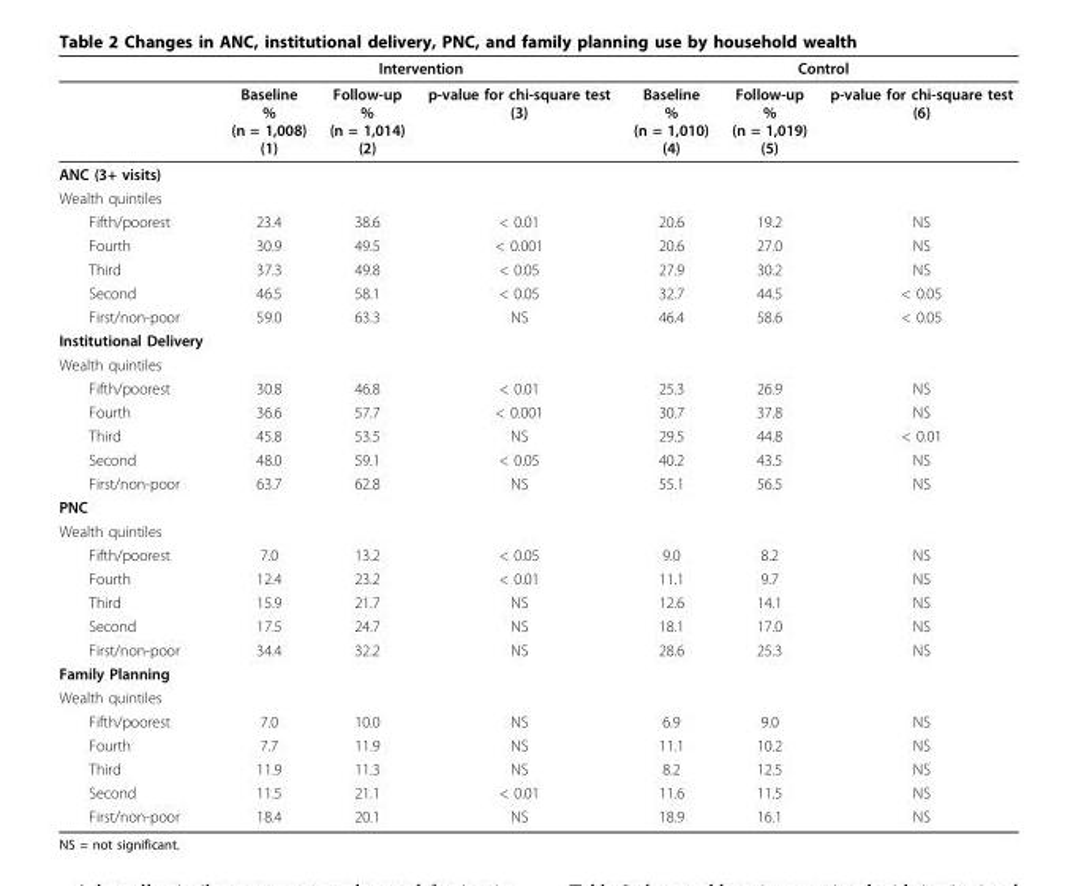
<table><thead><tr><td rowspan="2"></td><td colspan="3">Intervention</td><td colspan="3">Control</td></tr><tr><td>Baseline % (n = 1,008) (1)</td><td>Follow-up % (n = 1,014) (2)</td><td>p-value for chi-square test (3)</td><td>Baseline % (n = 1,010) (4)</td><td>Follow-up % (n = 1,019) (5)</td><td>p-value for chi-square test (6)</td></tr></thead><tbody><tr><td colspan="7">ANC (3+ visits)</td></tr><tr><td colspan="7">Wealth quintiles</td></tr><tr><td>Fifth/poorest</td><td>23.4</td><td>38.6</td><td>&lt; 0.01</td><td>20.6</td><td>19.2</td><td>NS</td></tr><tr><td>Fourth</td><td>30.9</td><td>49.5</td><td>&lt; 0.001</td><td>20.6</td><td>27.0</td><td>NS</td></tr><tr><td>Third</td><td>37.3</td><td>49.8</td><td>&lt; 0.05</td><td>27.9</td><td>30.2</td><td>NS</td></tr><tr><td>Second</td><td>46.5</td><td>58.1</td><td>&lt; 0.05</td><td>32.7</td><td>44.5</td><td>&lt; 0.05</td></tr><tr><td>First/non-poor</td><td>59.0</td><td>63.3</td><td>NS</td><td>46.4</td><td>58.6</td><td>&lt; 0.05</td></tr><tr><td colspan="7">Institutional Delivery</td></tr><tr><td colspan="7">Wealth quintiles</td></tr><tr><td>Fifth/poorest</td><td>30.8</td><td>46.8</td><td>&lt; 0.01</td><td>25.3</td><td>26.9</td><td>NS</td></tr><tr><td>Fourth</td><td>36.6</td><td>57.7</td><td>&lt; 0.001</td><td>30.7</td><td>37.8</td><td>NS</td></tr><tr><td>Third</td><td>45.8</td><td>53.5</td><td>NS</td><td>29.5</td><td>44.8</td><td>&lt; 0.01</td></tr><tr><td>Second</td><td>48.0</td><td>59.1</td><td>&lt; 0.05</td><td>40.2</td><td>43.5</td><td>NS</td></tr><tr><td>First/non-poor</td><td>63.7</td><td>62.8</td><td>NS</td><td>55.1</td><td>56.5</td><td>NS</td></tr><tr><td colspan="7">PNC</td></tr><tr><td colspan="7">Wealth quintiles</td></tr><tr><td>Fifth/poorest</td><td>7.0</td><td>13.2</td><td>&lt; 0.05</td><td>9.0</td><td>8.2</td><td>NS</td></tr><tr><td>Fourth</td><td>12.4</td><td>23.2</td><td>&lt; 0.01</td><td>11.1</td><td>9.7</td><td>NS</td></tr><tr><td>Third</td><td>15.9</td><td>21.7</td><td>NS</td><td>12.6</td><td>14.1</td><td>NS</td></tr><tr><td>Second</td><td>17.5</td><td>24.7</td><td>NS</td><td>18.1</td><td>17.0</td><td>NS</td></tr><tr><td>First/non-poor</td><td>34.4</td><td>32.2</td><td>NS</td><td>28.6</td><td>25.3</td><td>NS</td></tr><tr><td colspan="7">Family Planning</td></tr><tr><td colspan="7">Wealth quintiles</td></tr><tr><td>Fifth/poorest</td><td>7.0</td><td>10.0</td><td>NS</td><td>6.9</td><td>9.0</td><td>NS</td></tr><tr><td>Fourth</td><td>7.7</td><td>11.9</td><td>NS</td><td>11.1</td><td>10.2</td><td>NS</td></tr><tr><td>Third</td><td>11.9</td><td>11.3</td><td>NS</td><td>8.2</td><td>12.5</td><td>NS</td></tr><tr><td>Second</td><td>11.5</td><td>21.1</td><td>&lt; 0.01</td><td>11.6</td><td>11.5</td><td>NS</td></tr><tr><td>First/non-poor</td><td>18.4</td><td>20.1</td><td>NS</td><td>18.9</td><td>16.1</td><td>NS</td></tr></tbody></table>